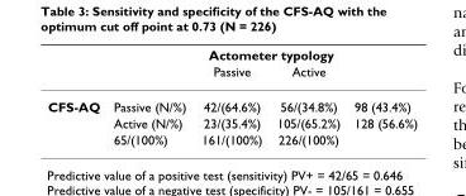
<table><thead><tr><td rowspan="2"></td><td rowspan="2"></td><td colspan="2">Actometer typology</td><td rowspan="2"></td></tr><tr><td>Passive</td><td>Active</td></tr></thead><tbody><tr><td rowspan="3">CFS-AQ</td><td>Passive (N/%)</td><td>42/(64.6%)</td><td>56/(34.8%)</td><td>98 (43.4%)</td></tr><tr><td>Active (N/%)</td><td>23/(35.4%)</td><td>105/(65.2%)</td><td>128 (56.6%)</td></tr><tr><td>65/(100%)</td><td>161/(100%)</td><td>226/(100%)</td><td></td></tr></tbody></table>